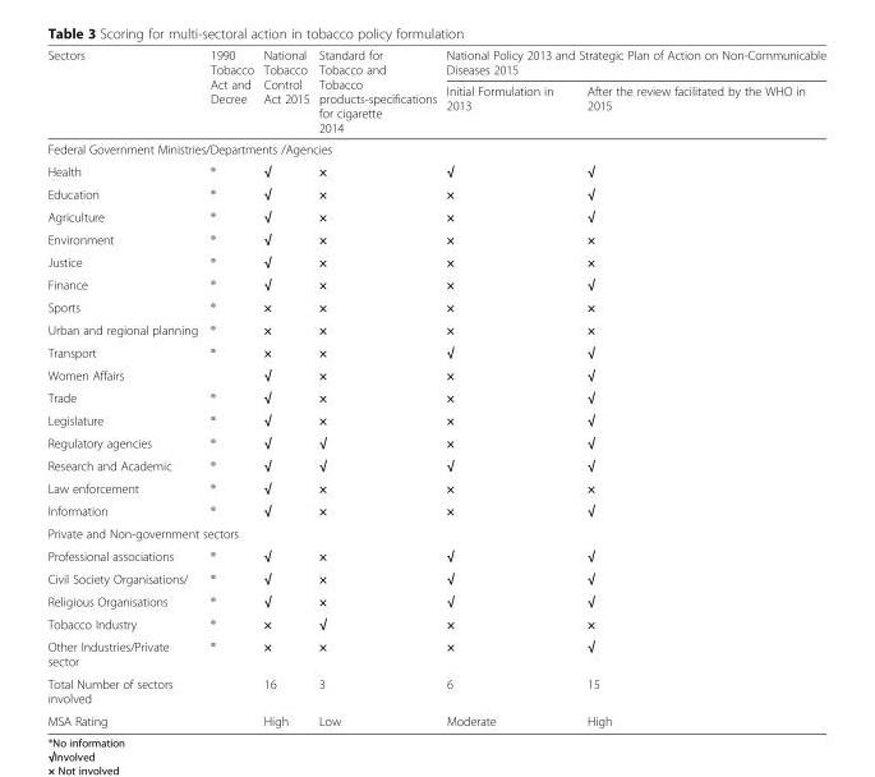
<table><thead><tr><td rowspan="2">Sectors</td><td rowspan="2">1990 Tobacco Act and Decree</td><td rowspan="2">National Tobacco Control Act 2015</td><td rowspan="2">Standard for Tobacco and Tobacco products-specifications for cigarette 2014</td><td colspan="2">National Policy 2013 and Strategic Plan of Action on Non-Communicable Diseases 2015</td></tr><tr><td>Initial Formulation in 2013</td><td>After the review facilitated by the WHO in 2015</td></tr></thead><tbody><tr><td colspan="6">Federal Government Ministries/Departments /Agencies</td></tr><tr><td>Health</td><td>®</td><td>√</td><td>×</td><td>√</td><td>√</td></tr><tr><td>Education</td><td>®</td><td>√</td><td>×</td><td>×</td><td>√</td></tr><tr><td>Agriculture</td><td>®</td><td>√</td><td>×</td><td>×</td><td>√</td></tr><tr><td>Environment</td><td>®</td><td>√</td><td>×</td><td>×</td><td>×</td></tr><tr><td>Justice</td><td>®</td><td>√</td><td>×</td><td>×</td><td>×</td></tr><tr><td>Finance</td><td>®</td><td>√</td><td>×</td><td>×</td><td>√</td></tr><tr><td>Sports</td><td>®</td><td>×</td><td>×</td><td>×</td><td>×</td></tr><tr><td>Urban and regional planning</td><td>®</td><td>×</td><td>×</td><td>×</td><td>×</td></tr><tr><td>Transport</td><td>®</td><td>×</td><td>×</td><td>√</td><td>√</td></tr><tr><td>Women Affairs</td><td></td><td>√</td><td>×</td><td>×</td><td>√</td></tr><tr><td>Trade</td><td>®</td><td>√</td><td>×</td><td>×</td><td>√</td></tr><tr><td>Legislature</td><td>®</td><td>√</td><td>×</td><td>×</td><td>√</td></tr><tr><td>Regulatory agencies</td><td>®</td><td>√</td><td>√</td><td>×</td><td>√</td></tr><tr><td>Research and Academic</td><td>®</td><td>√</td><td>√</td><td>√</td><td>√</td></tr><tr><td>Law enforcement</td><td>®</td><td>√</td><td>×</td><td>×</td><td>×</td></tr><tr><td>Information</td><td>®</td><td>√</td><td>×</td><td>×</td><td>√</td></tr><tr><td colspan="6">Private and Non-government sectors</td></tr><tr><td>Professional associations</td><td>®</td><td>√</td><td>×</td><td>√</td><td>√</td></tr><tr><td>Civil Society Organisations/</td><td>®</td><td>√</td><td>×</td><td>√</td><td>√</td></tr><tr><td>Religious Organisations</td><td>®</td><td>√</td><td>×</td><td>√</td><td>√</td></tr><tr><td>Tobacco Industry</td><td>®</td><td>×</td><td>√</td><td>×</td><td>×</td></tr><tr><td>Other Industries/Private sector</td><td>®</td><td>×</td><td>×</td><td>×</td><td>√</td></tr><tr><td>Total Number of sectors involved</td><td></td><td>16</td><td>3</td><td>6</td><td>15</td></tr><tr><td>MSA Rating</td><td></td><td>High</td><td>Low</td><td>Moderate</td><td>High</td></tr></tbody></table>